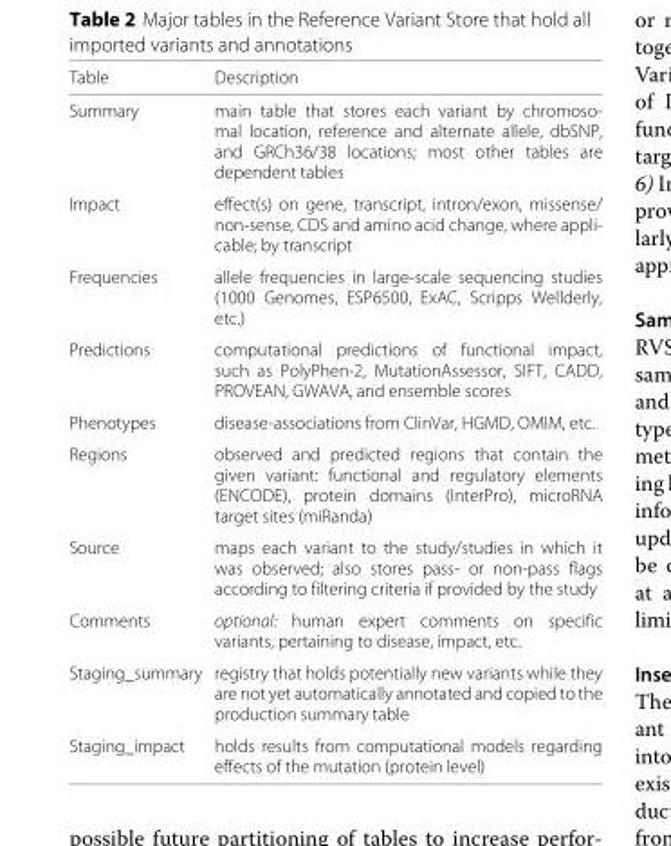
<table><thead><tr><td>Table</td><td>Description</td></tr></thead><tbody><tr><td>Summary</td><td>main table that stores each variant by chromoso- mal location, reference and alternate allele, dbSNP, and GRCh36/38 locations; most other tables are dependent tables</td></tr><tr><td>Impact</td><td>effect(s) on gene, transcript, intron/exon, missense/ non-sense, CDS and amino acid change, where appli- cable; by transcript</td></tr><tr><td>Frequencies</td><td>allele frequencies in large-scale sequencing studies (1000 Genomes, ESP6500, ExAC, Scripps Wellderly, etc.)</td></tr><tr><td>Predictions</td><td>computational predictions of functional impact, such as PolyPhen-2, MutationAssessor, SIFT, CADD, PROVEAN, GWAVA, and ensemble scores</td></tr><tr><td>Phenotypes</td><td>disease-associations from ClinVar, HGMD, OMIM, etc.</td></tr><tr><td>Regions</td><td>observed and predicted regions that contain the given variant: functional and regulatory elements (ENCODE), protein domains (InterPro), microRNA target sites (miRanda)</td></tr><tr><td>Source</td><td>maps each variant to the study/studies in which it was observed; also stores pass- or non-pass flags according to filtering criteria if provided by the study</td></tr><tr><td>Comments</td><td>optional: human expert comments on specific variants, pertaining to disease, impact, etc.</td></tr><tr><td>Staging_summary</td><td>registry that holds potentially new variants while they are not yet automatically annotated and copied to the production summary table</td></tr><tr><td>Staging_impact</td><td>holds results from computational models regarding effects of the mutation (protein level)</td></tr></tbody></table>